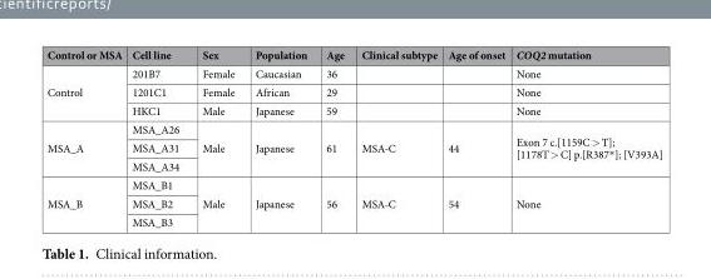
<table><thead><tr><td>Control or MSA</td><td>Cell line</td><td>Sex</td><td>Population</td><td>Age</td><td>Clinical subtype</td><td>Age of onset</td><td>COQ2 mutation</td></tr></thead><tbody><tr><td rowspan="3">Control</td><td>201B7</td><td>Female</td><td>Caucasian</td><td>36</td><td></td><td></td><td>None</td></tr><tr><td>1201C1</td><td>Female</td><td>African</td><td>29</td><td></td><td></td><td>None</td></tr><tr><td>HKC1</td><td>Male</td><td>Japanese</td><td>59</td><td></td><td></td><td>None</td></tr><tr><td rowspan="3">MSA_A</td><td>MSA_A26</td><td rowspan="3">Male</td><td rowspan="3">Japanese</td><td rowspan="3">61</td><td rowspan="3">MSA-C</td><td rowspan="3">44</td><td rowspan="3">Exon 7 c.[1159C &gt; T]; [1178T &gt; C] p.[R387*]; [V393A]</td></tr><tr><td>MSA_A31</td></tr><tr><td>MSA_A34</td></tr><tr><td rowspan="3">MSA_B</td><td>MSA_B1</td><td rowspan="3">Male</td><td rowspan="3">Japanese</td><td rowspan="3">56</td><td rowspan="3">MSA-C</td><td rowspan="3">54</td><td rowspan="3">None</td></tr><tr><td>MSA_B2</td></tr><tr><td>MSA_B3</td></tr></tbody></table>